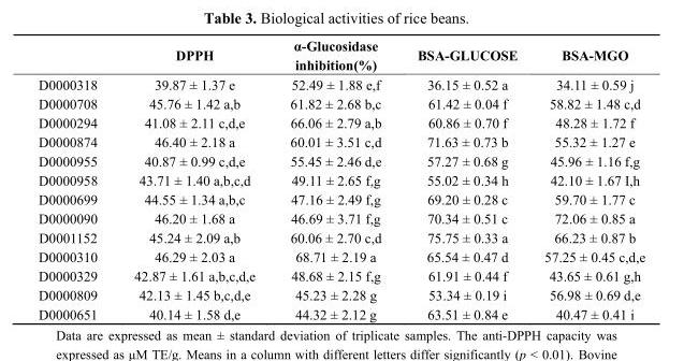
<table><thead><tr><td></td><td>DPPH</td><td>α-Glucosidase inhibition(%)</td><td>BSA-GLUCOSE</td><td>BSA-MGO</td></tr></thead><tbody><tr><td>D0000318</td><td>39.87 ± 1.37 e</td><td>52.49 ± 1.88 e,f</td><td>36.15 ± 0.52 a</td><td>34.11 ± 0.59 j</td></tr><tr><td>D0000708</td><td>45.76 ± 1.42 a,b</td><td>61.82 ± 2.68 b,c</td><td>61.42 ± 0.04 f</td><td>58.82 ± 1.48 c,d</td></tr><tr><td>D0000294</td><td>41.08 ± 2.11 c,d,e</td><td>66.06 ± 2.79 a,b</td><td>60.86 ± 0.70 f</td><td>48.28 ± 1.72 f</td></tr><tr><td>D0000874</td><td>46.40 ± 2.18 a</td><td>60.01 ± 3.51 c,d</td><td>71.63 ± 0.73 b</td><td>55.32 ± 1.27 e</td></tr><tr><td>D0000955</td><td>40.87 ± 0.99 c,d,e</td><td>55.45 ± 2.46 d,e</td><td>57.27 ± 0.68 g</td><td>45.96 ± 1.16 f,g</td></tr><tr><td>D0000958</td><td>43.71 ± 1.40 a,b,c,d</td><td>49.11 ± 2.65 f,g</td><td>55.02 ± 0.34 h</td><td>42.10 ± 1.67 I,h</td></tr><tr><td>D0000699</td><td>44.55 ± 1.34 a,b,c</td><td>47.16 ± 2.49 f,g</td><td>69.20 ± 0.28 c</td><td>59.70 ± 1.77 c</td></tr><tr><td>D0000090</td><td>46.20 ± 1.68 a</td><td>46.69 ± 3.71 f,g</td><td>70.34 ± 0.51 c</td><td>72.06 ± 0.85 a</td></tr><tr><td>D0001152</td><td>45.24 ± 2.09 a,b</td><td>60.06 ± 2.70 c,d</td><td>75.75 ± 0.33 a</td><td>66.23 ± 0.87 b</td></tr><tr><td>D0000310</td><td>46.29 ± 2.03 a</td><td>68.71 ± 2.19 a</td><td>65.54 ± 0.47 d</td><td>57.25 ± 0.45 c,d,e</td></tr><tr><td>D0000329</td><td>42.87 ± 1.61 a,b,c,d,e</td><td>48.68 ± 2.15 f,g</td><td>61.91 ± 0.44 f</td><td>43.65 ± 0.61 g,h</td></tr><tr><td>D0000809</td><td>42.13 ± 1.45 b,c,d,e</td><td>45.23 ± 2.28 g</td><td>53.34 ± 0.19 i</td><td>56.98 ± 0.69 d,e</td></tr><tr><td>D0000651</td><td>40.14 ± 1.58 d,e</td><td>44.32 ± 2.12 g</td><td>63.51 ± 0.84 e</td><td>40.47 ± 0.41 i</td></tr></tbody></table>